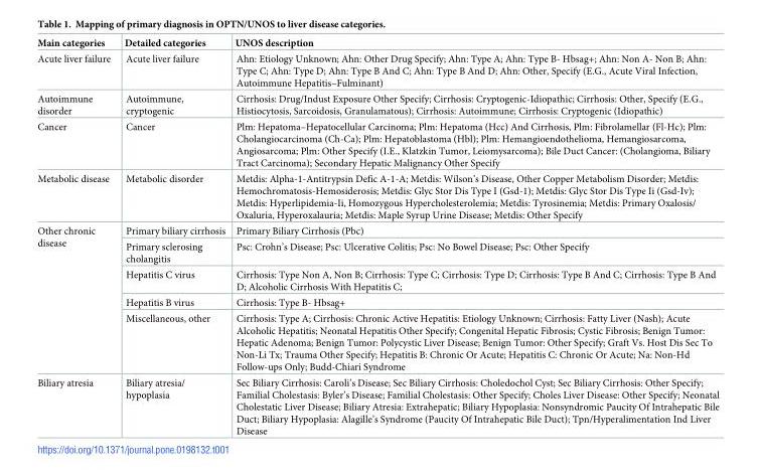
<table><thead><tr><td>Main categories</td><td>Detailed categories</td><td>UNOS description</td></tr></thead><tbody><tr><td>Acute liver failure</td><td>Acute liver failure</td><td>Ahn: Etiology Unknown; Ahn: Other Drug Specify; Ahn: Type A; Ahn: Type B- Hbsag+; Ahn: Non A- Non B; Ahn: Type C; Ahn: Type D; Ahn: Type B And C; Ahn: Type B And D; Ahn: Other, Specify (E.G., Acute Viral Infection, Autoimmune Hepatitis–Fulminant)</td></tr><tr><td>Autoimmune disorder</td><td>Autoimmune, cryptogenic</td><td>Cirrhosis: Drug/Indust Exposure Other Specify; Cirrhosis: Cryptogenic-Idiopathic; Cirrhosis: Other, Specify (E.G., Histiocytosis, Sarcoidosis, Granulamatous); Cirrhosis: Autoimmune; Cirrhosis: Cryptogenic (Idiopathic)</td></tr><tr><td>Cancer</td><td>Cancer</td><td>Plm: Hepatoma–Hepatocellular Carcinoma; Plm: Hepatoma (Hcc) And Cirrhosis, Plm: Fibrolamellar (Fl-Hc); Plm: Cholangiocarcinoma (Ch-Ca); Plm: Hepatoblastoma (Hbl); Plm: Hemangioendothelioma, Hemangiosarcoma, Angiosarcoma; Plm: Other Specify (I.E., Klatzkin Tumor, Leiomysarcoma); Bile Duct Cancer: (Cholangioma, Biliary Tract Carcinoma); Secondary Hepatic Malignancy Other Specify</td></tr><tr><td>Metabolic disease</td><td>Metabolic disorder</td><td>Metdis: Alpha-1-Antitrypsin Defic A-1-A; Metdis: Wilson’s Disease, Other Copper Metabolism Disorder; Metdis: Hemochromatosis-Hemosiderosis; Metdis: Glyc Stor Dis Type I (Gsd-1); Metdis: Glyc Stor Dis Type Ii (Gsd-Iv); Metdis: Hyperlipidemia-Ii, Homozygous Hypercholesterolemia; Metdis: Tyrosinemia; Metdis: Primary Oxalosis/ Oxaluria, Hyperoxalauria; Metdis: Maple Syrup Urine Disease; Metdis: Other Specify</td></tr><tr><td rowspan="5">Other chronic disease</td><td>Primary biliary cirrhosis</td><td>Primary Biliary Cirrhosis (Pbc)</td></tr><tr><td>Primary sclerosing cholangitis</td><td>Psc: Crohn’s Disease; Psc: Ulcerative Colitis; Psc: No Bowel Disease; Psc: Other Specify</td></tr><tr><td>Hepatitis C virus</td><td>Cirrhosis: Type Non A, Non B; Cirrhosis: Type C; Cirrhosis: Type D; Cirrhosis: Type B And C; Cirrhosis: Type B And D; Alcoholic Cirrhosis With Hepatitis C;</td></tr><tr><td>Hepatitis B virus</td><td>Cirrhosis: Type B- Hbsag+</td></tr><tr><td>Miscellaneous, other</td><td>Cirrhosis: Type A; Cirrhosis: Chronic Active Hepatitis: Etiology Unknown; Cirrhosis: Fatty Liver (Nash); Acute Alcoholic Hepatitis; Neonatal Hepatitis Other Specify; Congenital Hepatic Fibrosis; Cystic Fibrosis; Benign Tumor: Hepatic Adenoma; Benign Tumor: Polycystic Liver Disease; Benign Tumor: Other Specify; Graft Vs. Host Dis Sec To Non-Li Tx; Trauma Other Specify; Hepatitis B: Chronic Or Acute; Hepatitis C: Chronic Or Acute; Na: Non-Hd Follow-ups Only; Budd-Chiari Syndrome</td></tr><tr><td>Biliary atresia</td><td>Biliary atresia/ hypoplasia</td><td>Sec Biliary Cirrhosis: Caroli’s Disease; Sec Biliary Cirrhosis: Choledochol Cyst; Sec Biliary Cirrhosis: Other Specify; Familial Cholestasis: Byler’s Disease; Familial Cholestasis: Other Specify; Choles Liver Disease: Other Specify; Neonatal Cholestatic Liver Disease; Biliary Atresia: Extrahepatic; Biliary Hypoplasia: Nonsyndromic Paucity Of Intrahepatic Bile Duct; Biliary Hypoplasia: Alagille’s Syndrome (Paucity Of Intrahepatic Bile Duct); Tpn/Hyperalimentation Ind Liver Disease</td></tr></tbody></table>